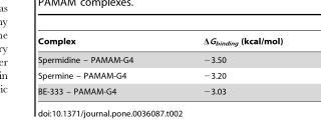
<table><thead><tr><td>Complex</td><td>ΔG<sub>binding</sub> (kcal/mol)</td></tr></thead><tbody><tr><td>Spermidine – PAMAM-G4</td><td>−3.50</td></tr><tr><td>Spermine – PAMAM-G4</td><td>−3.20</td></tr><tr><td>BE-333 – PAMAM-G4</td><td>−3.03</td></tr></tbody></table>